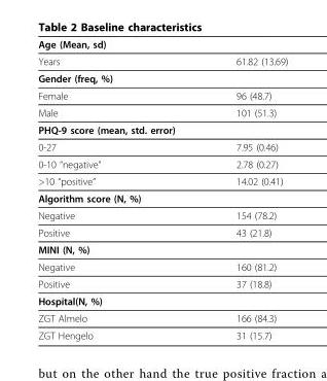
<table><thead><tr><td>Age (Mean, sd)</td><td></td></tr></thead><tbody><tr><td>Years</td><td>61.82 (13.69)</td></tr><tr><td colspan="2">Gender (freq, %)</td></tr><tr><td>Female</td><td>96 (48.7)</td></tr><tr><td>Male</td><td>101 (51.3)</td></tr><tr><td colspan="2">PHQ-9 score (mean, std. error)</td></tr><tr><td>0-27</td><td>7.95 (0.46)</td></tr><tr><td>0-10 “negative”</td><td>2.78 (0.27)</td></tr><tr><td>&gt;10 “positive”</td><td>14.02 (0.41)</td></tr><tr><td colspan="2">Algorithm score (N, %)</td></tr><tr><td>Negative</td><td>154 (78.2)</td></tr><tr><td>Positive</td><td>43 (21.8)</td></tr><tr><td colspan="2">MINI (N, %)</td></tr><tr><td>Negative</td><td>160 (81.2)</td></tr><tr><td>Positive</td><td>37 (18.8)</td></tr><tr><td colspan="2">Hospital(N, %)</td></tr><tr><td>ZGT Almelo</td><td>166 (84.3)</td></tr><tr><td>ZGT Hengelo</td><td>31 (15.7)</td></tr></tbody></table>